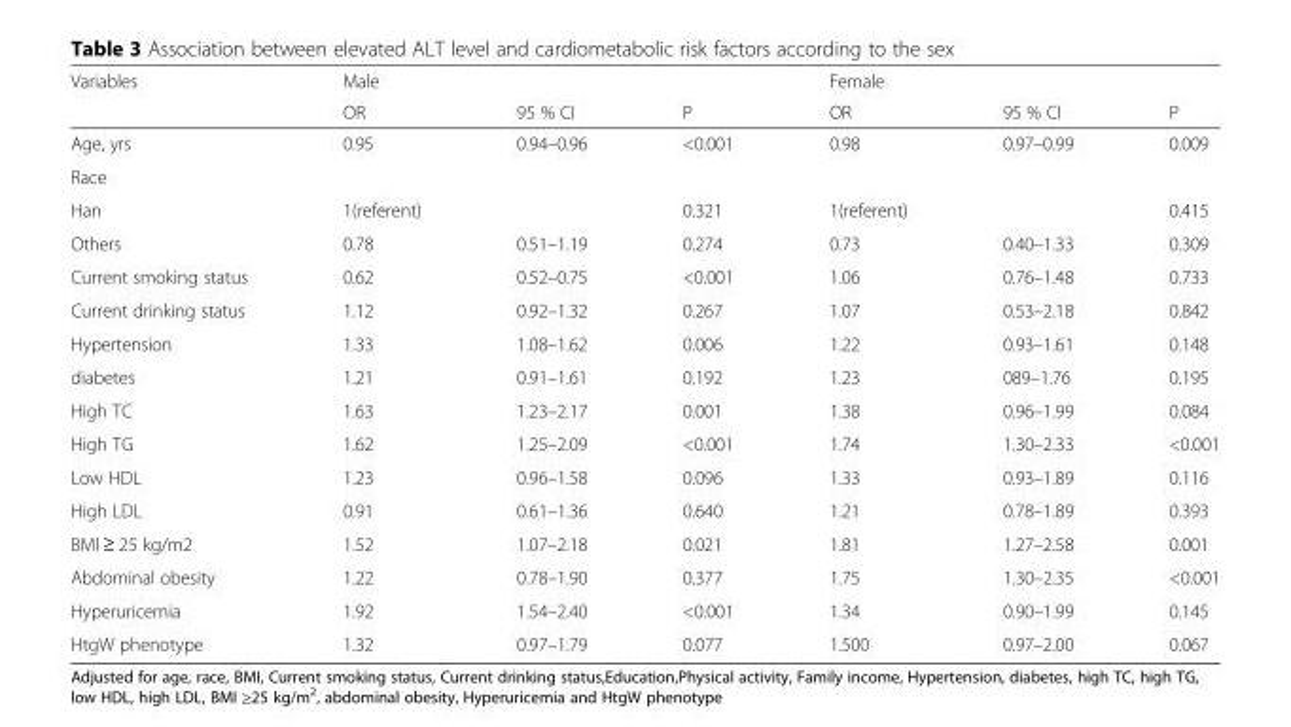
<table><thead><tr><td rowspan="2">Variables</td><td colspan="3">Male</td><td colspan="3">Female</td></tr><tr><td>OR</td><td>95 % CI</td><td>P</td><td>OR</td><td>95 % CI</td><td>P</td></tr></thead><tbody><tr><td>Age, yrs</td><td>0.95</td><td>0.94–0.96</td><td>&lt;0.001</td><td>0.98</td><td>0.97–0.99</td><td>0.009</td></tr><tr><td colspan="7">Race</td></tr><tr><td>Han</td><td>1(referent)</td><td></td><td>0.321</td><td>1(referent)</td><td></td><td>0.415</td></tr><tr><td>Others</td><td>0.78</td><td>0.51–1.19</td><td>0.274</td><td>0.73</td><td>0.40–1.33</td><td>0.309</td></tr><tr><td>Current smoking status</td><td>0.62</td><td>0.52–0.75</td><td>&lt;0.001</td><td>1.06</td><td>0.76–1.48</td><td>0.733</td></tr><tr><td>Current drinking status</td><td>1.12</td><td>0.92–1.32</td><td>0.267</td><td>1.07</td><td>0.53–2.18</td><td>0.842</td></tr><tr><td>Hypertension</td><td>1.33</td><td>1.08–1.62</td><td>0.006</td><td>1.22</td><td>0.93–1.61</td><td>0.148</td></tr><tr><td>diabetes</td><td>1.21</td><td>0.91–1.61</td><td>0.192</td><td>1.23</td><td>089–1.76</td><td>0.195</td></tr><tr><td>High TC</td><td>1.63</td><td>1.23–2.17</td><td>0.001</td><td>1.38</td><td>0.96–1.99</td><td>0.084</td></tr><tr><td>High TG</td><td>1.62</td><td>1.25–2.09</td><td>&lt;0.001</td><td>1.74</td><td>1.30–2.33</td><td>&lt;0.001</td></tr><tr><td>Low HDL</td><td>1.23</td><td>0.96–1.58</td><td>0.096</td><td>1.33</td><td>0.93–1.89</td><td>0.116</td></tr><tr><td>High LDL</td><td>0.91</td><td>0.61–1.36</td><td>0.640</td><td>1.21</td><td>0.78–1.89</td><td>0.393</td></tr><tr><td>BMI ≥ 25 kg/m2</td><td>1.52</td><td>1.07–2.18</td><td>0.021</td><td>1.81</td><td>1.27–2.58</td><td>0.001</td></tr><tr><td>Abdominal obesity</td><td>1.22</td><td>0.78–1.90</td><td>0.377</td><td>1.75</td><td>1.30–2.35</td><td>&lt;0.001</td></tr><tr><td>Hyperuricemia</td><td>1.92</td><td>1.54–2.40</td><td>&lt;0.001</td><td>1.34</td><td>0.90–1.99</td><td>0.145</td></tr><tr><td>HtgW phenotype</td><td>1.32</td><td>0.97–1.79</td><td>0.077</td><td>1.500</td><td>0.97–2.00</td><td>0.067</td></tr></tbody></table>